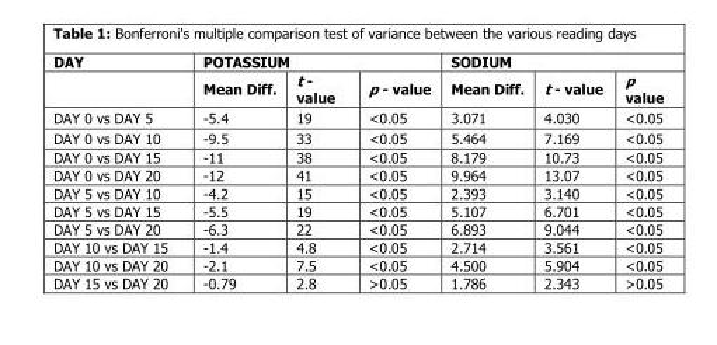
<table><thead><tr><td rowspan="2">DAY</td><td colspan="3">POTASSIUM</td><td colspan="3">SODIUM</td></tr><tr><td>Mean Diff.</td><td>t - value</td><td>p - value</td><td>Mean Diff.</td><td>t - value</td><td>p value</td></tr></thead><tbody><tr><td>DAY 0 vs DAY 5</td><td>-5.4</td><td>19</td><td>&lt;0.05</td><td>3.071</td><td>4.030</td><td>&lt;0.05</td></tr><tr><td>DAY 0 vs DAY 10</td><td>-9.5</td><td>33</td><td>&lt;0.05</td><td>5.464</td><td>7.169</td><td>&lt;0.05</td></tr><tr><td>DAY 0 vs DAY 15</td><td>-11</td><td>38</td><td>&lt;0.05</td><td>8.179</td><td>10.73</td><td>&lt;0.05</td></tr><tr><td>DAY 0 vs DAY 20</td><td>-12</td><td>41</td><td>&lt;0.05</td><td>9.964</td><td>13.07</td><td>&lt;0.05</td></tr><tr><td>DAY 5 vs DAY 10</td><td>-4.2</td><td>15</td><td>&lt;0.05</td><td>2.393</td><td>3.140</td><td>&lt;0.05</td></tr><tr><td>DAY 5 vs DAY 15</td><td>-5.5</td><td>19</td><td>&lt;0.05</td><td>5.107</td><td>6.701</td><td>&lt;0.05</td></tr><tr><td>DAY 5 vs DAY 20</td><td>-6.3</td><td>22</td><td>&lt;0.05</td><td>6.893</td><td>9.044</td><td>&lt;0.05</td></tr><tr><td>DAY 10 vs DAY 15</td><td>-1.4</td><td>4.8</td><td>&lt;0.05</td><td>2.714</td><td>3.561</td><td>&lt;0.05</td></tr><tr><td>DAY 10 vs DAY 20</td><td>-2.1</td><td>7.5</td><td>&lt;0.05</td><td>4.500</td><td>5.904</td><td>&lt;0.05</td></tr><tr><td>DAY 15 vs DAY 20</td><td>-0.79</td><td>2.8</td><td>&gt;0.05</td><td>1.786</td><td>2.343</td><td>&gt;0.05</td></tr></tbody></table>